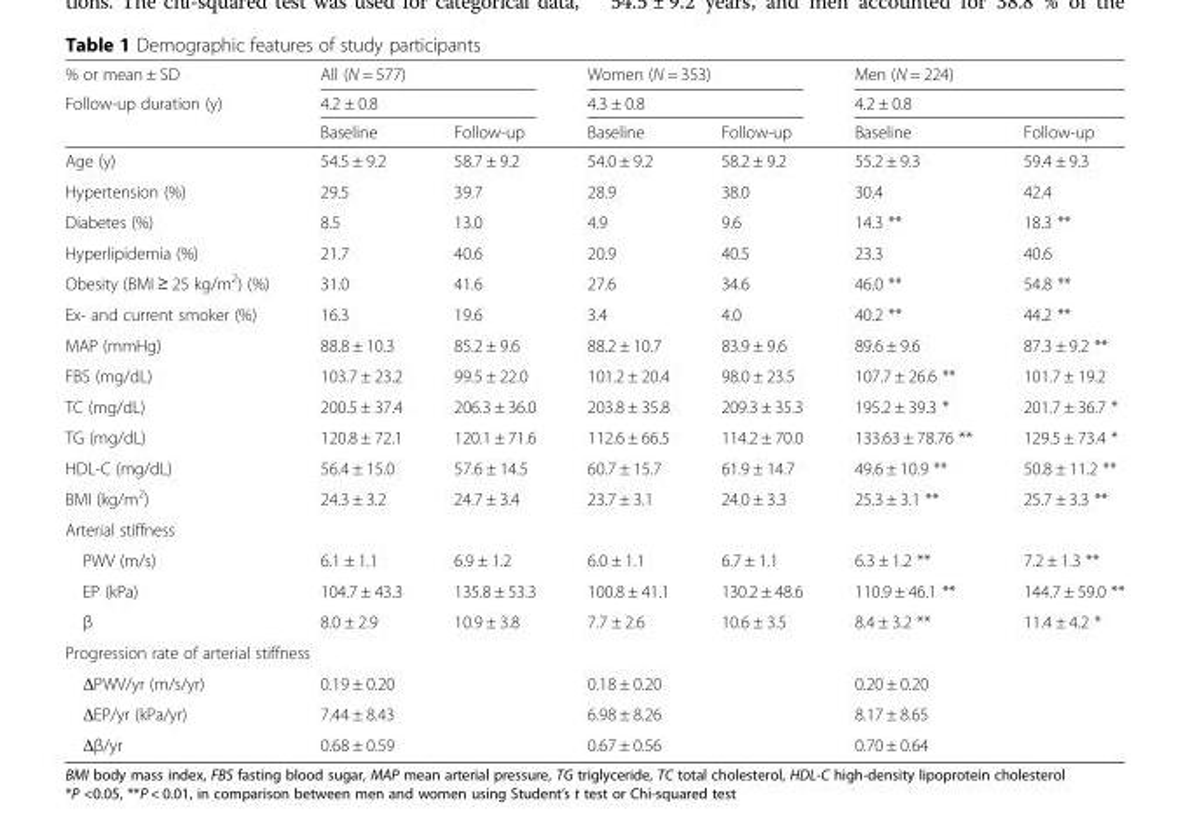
<table><thead><tr><td rowspan="3">% or mean ± SD Follow-up duration (y)</td><td rowspan="2" colspan="2">All (N = 577) 4.2 ± 0.8</td><td rowspan="2" colspan="2">Women (N = 353) 4.3 ± 0.8</td><td rowspan="2" colspan="2">Men (N = 224) 4.2 ± 0.8</td></tr><tr></tr><tr><td>Baseline</td><td>Follow-up</td><td>Baseline</td><td>Follow-up</td><td>Baseline</td><td>Follow-up</td></tr></thead><tbody><tr><td>Age (y)</td><td>54.5 ± 9.2</td><td>58.7 ± 9.2</td><td>54.0 ± 9.2</td><td>58.2 ± 9.2</td><td>55.2 ± 9.3</td><td>59.4 ± 9.3</td></tr><tr><td>Hypertension (%)</td><td>29.5</td><td>39.7</td><td>28.9</td><td>38.0</td><td>30.4</td><td>42.4</td></tr><tr><td>Diabetes (%)</td><td>8.5</td><td>13.0</td><td>4.9</td><td>9.6</td><td>14.3 **</td><td>18.3 **</td></tr><tr><td>Hyperlipidemia (%)</td><td>21.7</td><td>40.6</td><td>20.9</td><td>40.5</td><td>23.3</td><td>40.6</td></tr><tr><td>Obesity (BMI ≥ 25 kg/m<sup>2</sup>) (%)</td><td>31.0</td><td>41.6</td><td>27.6</td><td>34.6</td><td>46.0 **</td><td>54.8 **</td></tr><tr><td>Ex- and current smoker (%)</td><td>16.3</td><td>19.6</td><td>3.4</td><td>4.0</td><td>40.2 **</td><td>44.2 **</td></tr><tr><td>MAP (mmHg)</td><td>88.8 ± 10.3</td><td>85.2 ± 9.6</td><td>88.2 ± 10.7</td><td>83.9 ± 9.6</td><td>89.6 ± 9.6</td><td>87.3 ± 9.2 **</td></tr><tr><td>FBS (mg/dL)</td><td>103.7 ± 23.2</td><td>99.5 ± 22.0</td><td>101.2 ± 20.4</td><td>98.0 ± 23.5</td><td>107.7 ± 26.6 **</td><td>101.7 ± 19.2</td></tr><tr><td>TC (mg/dL)</td><td>200.5 ± 37.4</td><td>206.3 ± 36.0</td><td>203.8 ± 35.8</td><td>209.3 ± 35.3</td><td>195.2 ± 39.3 *</td><td>201.7 ± 36.7 *</td></tr><tr><td>TG (mg/dL)</td><td>120.8 ± 72.1</td><td>120.1 ± 71.6</td><td>112.6 ± 66.5</td><td>114.2 ± 70.0</td><td>133.63 ± 78.76 **</td><td>129.5 ± 73.4 *</td></tr><tr><td>HDL-C (mg/dL)</td><td>56.4 ± 15.0</td><td>57.6 ± 14.5</td><td>60.7 ± 15.7</td><td>61.9 ± 14.7</td><td>49.6 ± 10.9 **</td><td>50.8 ± 11.2 **</td></tr><tr><td>BMI (kg/m<sup>2</sup>)</td><td>24.3 ± 3.2</td><td>24.7 ± 3.4</td><td>23.7 ± 3.1</td><td>24.0 ± 3.3</td><td>25.3 ± 3.1 **</td><td>25.7 ± 3.3 **</td></tr><tr><td colspan="7">Arterial stiffness</td></tr><tr><td>PWV (m/s)</td><td>6.1 ± 1.1</td><td>6.9 ± 1.2</td><td>6.0 ± 1.1</td><td>6.7 ± 1.1</td><td>6.3 ± 1.2 **</td><td>7.2 ± 1.3 **</td></tr><tr><td>EP (kPa)</td><td>104.7 ± 43.3</td><td>135.8 ± 53.3</td><td>100.8 ± 41.1</td><td>130.2 ± 48.6</td><td>110.9 ± 46.1 **</td><td>144.7 ± 59.0 **</td></tr><tr><td>β</td><td>8.0 ± 2.9</td><td>10.9 ± 3.8</td><td>7.7 ± 2.6</td><td>10.6 ± 3.5</td><td>8.4 ± 3.2 **</td><td>11.4 ± 4.2 *</td></tr><tr><td colspan="7">Progression rate of arterial stiffness</td></tr><tr><td>ΔPWV/yr (m/s/yr)</td><td colspan="2">0.19 ± 0.20</td><td colspan="2">0.18 ± 0.20</td><td colspan="2">0.20 ± 0.20</td></tr><tr><td>ΔEP/yr (kPa/yr)</td><td colspan="2">7.44 ± 8.43</td><td colspan="2">6.98 ± 8.26</td><td colspan="2">8.17 ± 8.65</td></tr><tr><td>Δβ/yr</td><td colspan="2">0.68 ± 0.59</td><td colspan="2">0.67 ± 0.56</td><td colspan="2">0.70 ± 0.64</td></tr></tbody></table>